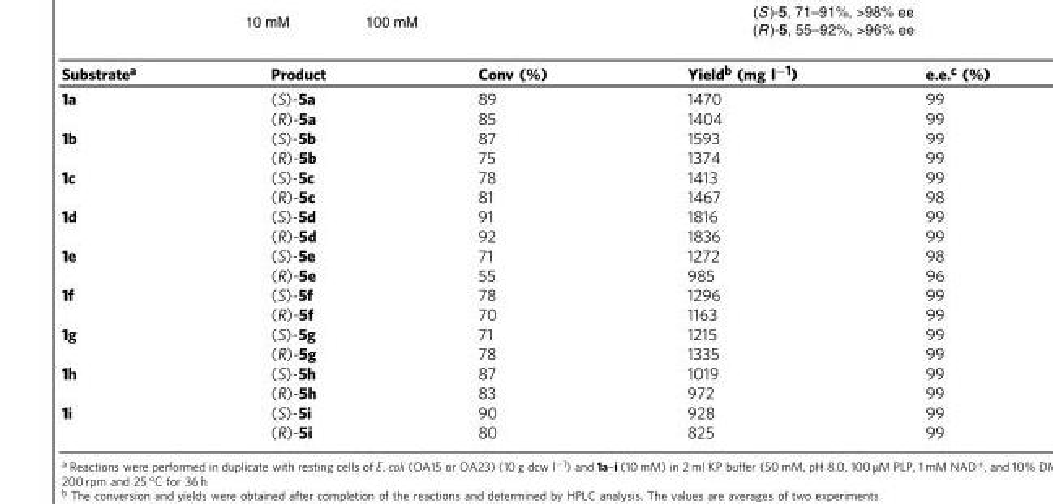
<table><thead><tr><td>Substrate<sup>a</sup></td><td>Product</td><td>Conv (%)</td><td>Yield<sup>b</sup> (mg l<sup>−1</sup>)</td><td>e.e.<sup>c</sup> (%)</td></tr></thead><tbody><tr><td rowspan="2">1a</td><td>(S)-5a</td><td>89</td><td>1470</td><td>99</td></tr><tr><td>(R)-5a</td><td>85</td><td>1404</td><td>99</td></tr><tr><td rowspan="2">1b</td><td>(S)-5b</td><td>87</td><td>1593</td><td>99</td></tr><tr><td>(R)-5b</td><td>75</td><td>1374</td><td>99</td></tr><tr><td rowspan="2">1c</td><td>(S)-5c</td><td>78</td><td>1413</td><td>99</td></tr><tr><td>(R)-5c</td><td>81</td><td>1467</td><td>98</td></tr><tr><td rowspan="2">1d</td><td>(S)-5d</td><td>91</td><td>1816</td><td>99</td></tr><tr><td>(R)-5d</td><td>92</td><td>1836</td><td>99</td></tr><tr><td rowspan="2">1e</td><td>(S)-5e</td><td>71</td><td>1272</td><td>98</td></tr><tr><td>(R)-5e</td><td>55</td><td>985</td><td>96</td></tr><tr><td rowspan="2">1f</td><td>(S)-5f</td><td>78</td><td>1296</td><td>99</td></tr><tr><td>(R)-5f</td><td>70</td><td>1163</td><td>99</td></tr><tr><td rowspan="2">1g</td><td>(S)-5g</td><td>71</td><td>1215</td><td>99</td></tr><tr><td>(R)-5g</td><td>78</td><td>1335</td><td>99</td></tr><tr><td rowspan="2">1h</td><td>(S)-5h</td><td>87</td><td>1019</td><td>99</td></tr><tr><td>(R)-5h</td><td>83</td><td>972</td><td>99</td></tr><tr><td rowspan="2">1i</td><td>(S)-5i</td><td>90</td><td>928</td><td>99</td></tr><tr><td>(R)-5i</td><td>80</td><td>825</td><td>99</td></tr></tbody></table>